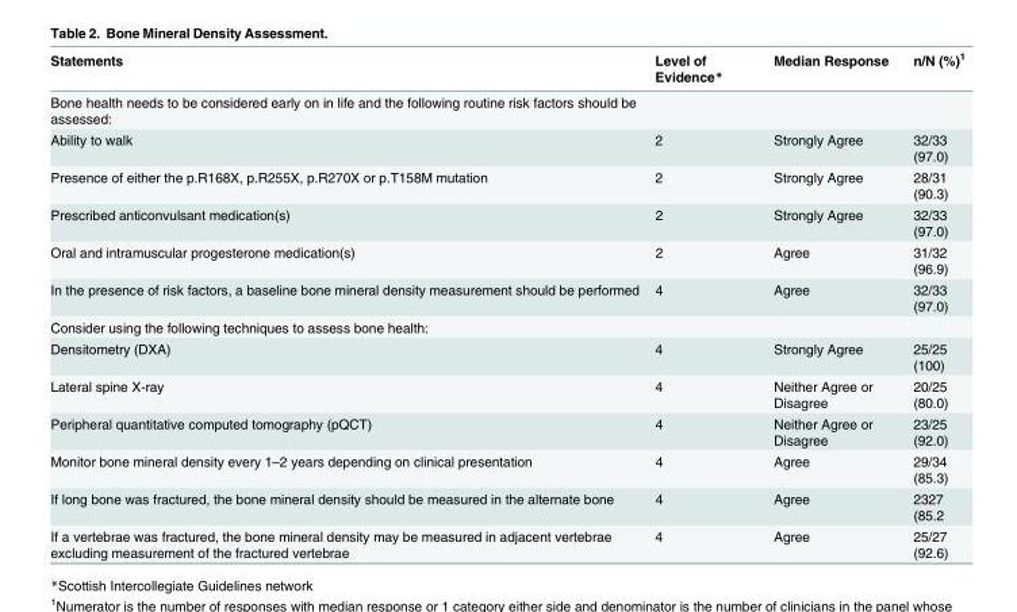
<table><thead><tr><td>Statements</td><td>Level of Evidence*</td><td>Median Response</td><td>n/N (%)<sup>1</sup></td></tr></thead><tbody><tr><td colspan="4">Bone health needs to be considered early on in life and the following routine risk factors should be assessed:</td></tr><tr><td>Ability to walk</td><td>2</td><td>Strongly Agree</td><td>32/33 (97.0)</td></tr><tr><td>Presence of either the p.R168X, p.R255X, p.R270X or p.T158M mutation</td><td>2</td><td>Strongly Agree</td><td>28/31 (90.3)</td></tr><tr><td>Prescribed anticonvulsant medication(s)</td><td>2</td><td>Strongly Agree</td><td>32/33 (97.0)</td></tr><tr><td>Oral and intramuscular progesterone medication(s)</td><td>2</td><td>Agree</td><td>31/32 (96.9)</td></tr><tr><td>In the presence of risk factors, a baseline bone mineral density measurement should be performed</td><td>4</td><td>Agree</td><td>32/33 (97.0)</td></tr><tr><td colspan="4">Consider using the following techniques to assess bone health:</td></tr><tr><td>Densitometry (DXA)</td><td>4</td><td>Strongly Agree</td><td>25/25 (100)</td></tr><tr><td>Lateral spine X-ray</td><td>4</td><td>Neither Agree or Disagree</td><td>20/25 (80.0)</td></tr><tr><td>Peripheral quantitative computed tomography (pQCT)</td><td>4</td><td>Neither Agree or Disagree</td><td>23/25 (92.0)</td></tr><tr><td>Monitor bone mineral density every 1–2 years depending on clinical presentation</td><td>4</td><td>Agree</td><td>29/34 (85.3)</td></tr><tr><td>If long bone was fractured, the bone mineral density should be measured in the alternate bone</td><td>4</td><td>Agree</td><td>2327 (85.2</td></tr><tr><td>If a vertebrae was fractured, the bone mineral density may be measured in adjacent vertebrae excluding measurement of the fractured vertebrae</td><td>4</td><td>Agree</td><td>25/27 (92.6)</td></tr></tbody></table>